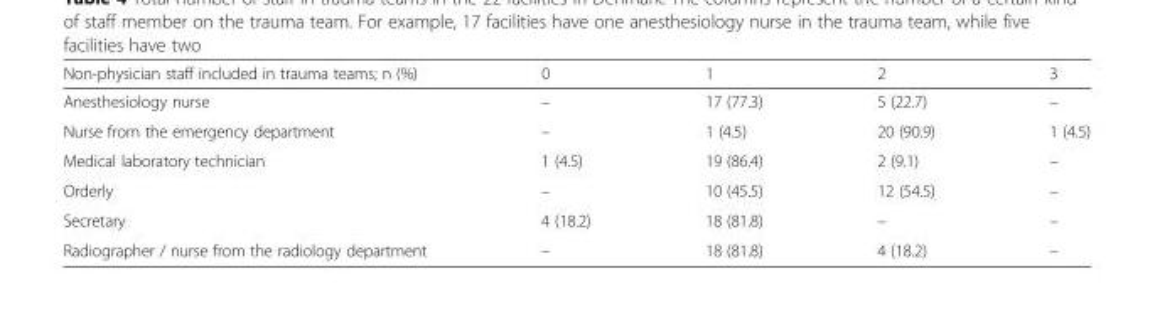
<table><thead><tr><td>Non-physician staff included in trauma teams; n (%)</td><td>0</td><td>1</td><td>2</td><td>3</td></tr></thead><tbody><tr><td>Anesthesiology nurse</td><td>–</td><td>17 (77.3)</td><td>5 (22.7)</td><td>–</td></tr><tr><td>Nurse from the emergency department</td><td>–</td><td>1 (4.5)</td><td>20 (90.9)</td><td>1 (4.5)</td></tr><tr><td>Medical laboratory technician</td><td>1 (4.5)</td><td>19 (86.4)</td><td>2 (9.1)</td><td>–</td></tr><tr><td>Orderly</td><td>–</td><td>10 (45.5)</td><td>12 (54.5)</td><td>–</td></tr><tr><td>Secretary</td><td>4 (18.2)</td><td>18 (81.8)</td><td>–</td><td>–</td></tr><tr><td>Radiographer / nurse from the radiology department</td><td>–</td><td>18 (81.8)</td><td>4 (18.2)</td><td>–</td></tr></tbody></table>